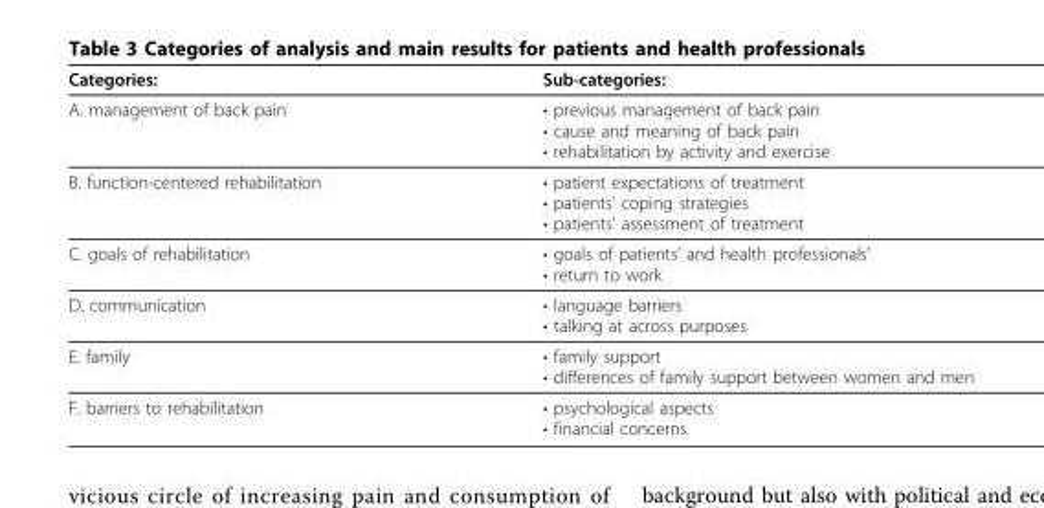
<table><thead><tr><td>Categories:</td><td>Sub-categories:</td></tr></thead><tbody><tr><td>A. management of back pain</td><td>• previous management of back pain • cause and meaning of back pain • rehabilitation by activity and exercise</td></tr><tr><td>B. function-centered rehabilitation</td><td>• patient expectations of treatment • patients’ coping strategies • patients’ assessment of treatment</td></tr><tr><td>C. goals of rehabilitation</td><td>• goals of patients’ and health professionals’ • return to work</td></tr><tr><td>D. communication</td><td>• language barriers • talking at across purposes</td></tr><tr><td>E. family</td><td>• family support • differences of family support between women and men</td></tr><tr><td>F. barriers to rehabilitation</td><td>• psychological aspects • financial concerns</td></tr></tbody></table>